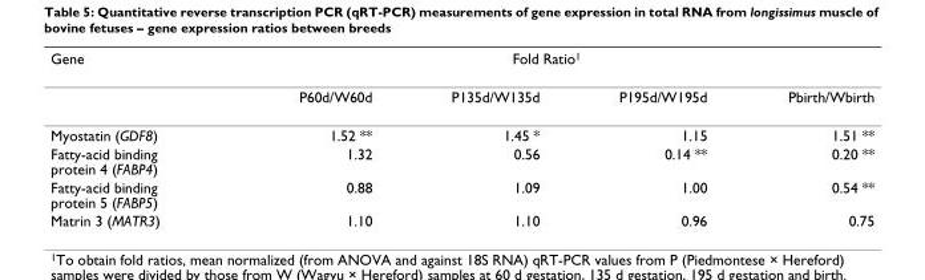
<table><thead><tr><td rowspan="2">Gene</td><td colspan="4">Fold Ratio<sup>1</sup></td></tr><tr><td>P60d/W60d</td><td>P135d/W135d</td><td>P195d/W195d</td><td>Pbirth/Wbirth</td></tr></thead><tbody><tr><td>Myostatin (GDF8)</td><td>1.52 **</td><td>1.45 *</td><td>1.15</td><td>1.51 **</td></tr><tr><td>Fatty-acid binding protein 4 (FABP4)</td><td>1.32</td><td>0.56</td><td>0.14 **</td><td>0.20 **</td></tr><tr><td>Fatty-acid binding protein 5 (FABP5)</td><td>0.88</td><td>1.09</td><td>1.00</td><td>0.54 **</td></tr><tr><td>Matrin 3 (MATR3)</td><td>1.10</td><td>1.10</td><td>0.96</td><td>0.75</td></tr></tbody></table>